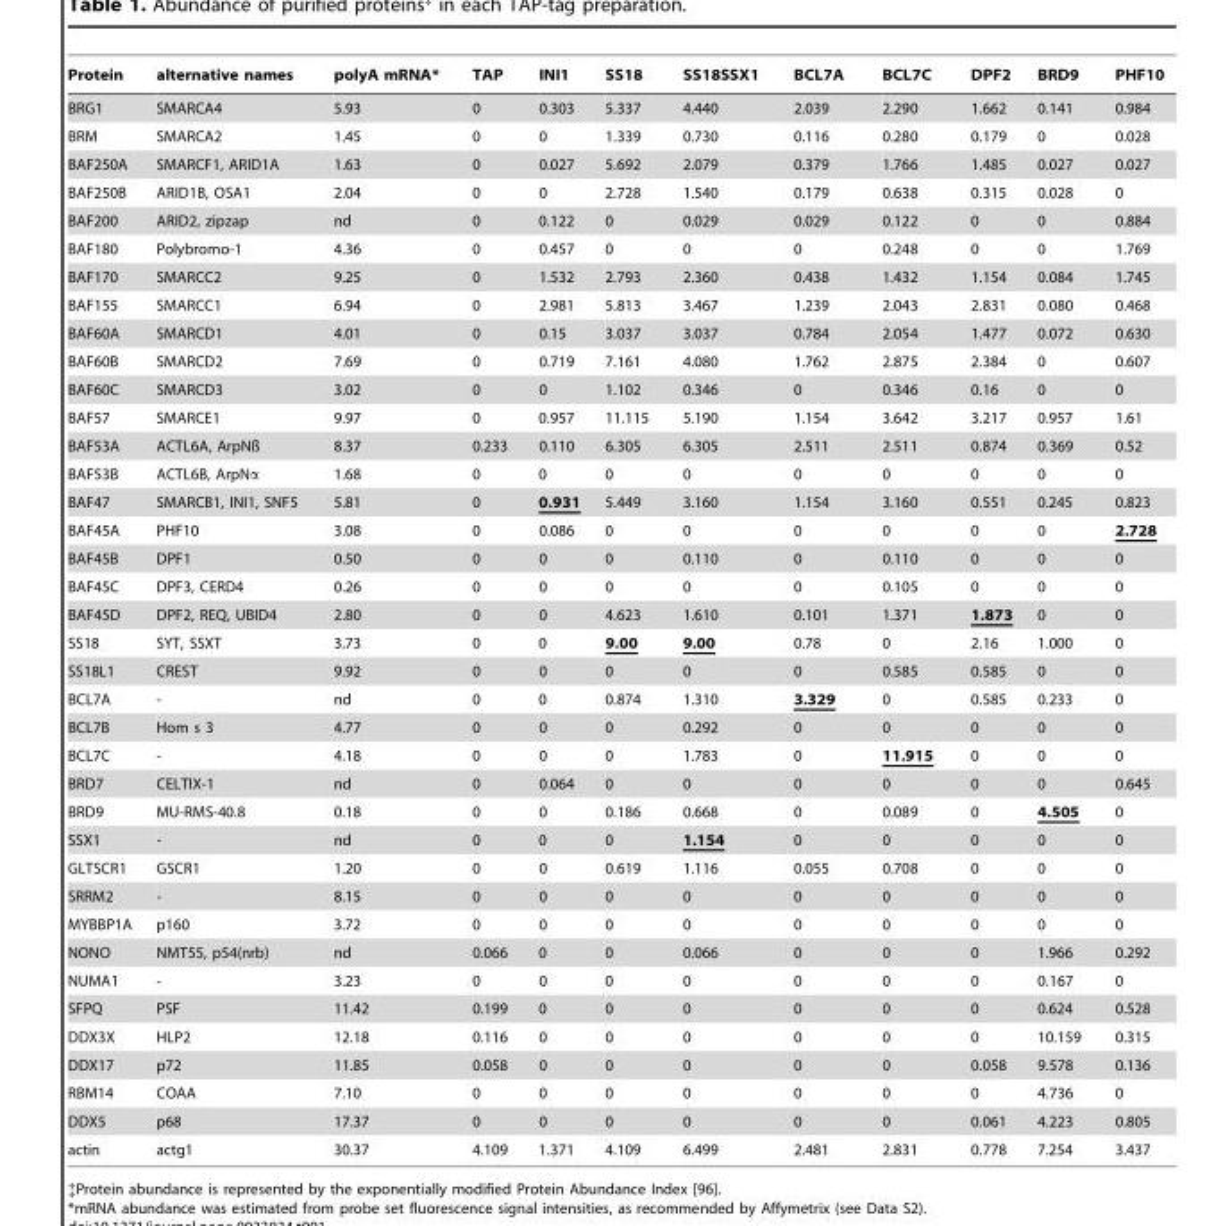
<table><thead><tr><td>Protein</td><td>alternative names</td><td>polyA mRNA*</td><td>TAP</td><td>INI1</td><td>SS18</td><td>SS18SSX1</td><td>BCL7A</td><td>BCL7C</td><td>DPF2</td><td>BRD9</td><td>PHF10</td></tr></thead><tbody><tr><td>BRG1</td><td>SMARCA4</td><td>5.93</td><td>0</td><td>0.303</td><td>5.337</td><td>4.440</td><td>2.039</td><td>2.290</td><td>1.662</td><td>0.141</td><td>0.984</td></tr><tr><td>BRM</td><td>SMARCA2</td><td>1.45</td><td>0</td><td>0</td><td>1.339</td><td>0.730</td><td>0.116</td><td>0.280</td><td>0.179</td><td>0</td><td>0.028</td></tr><tr><td>BAF250A</td><td>SMARCF1, ARID1A</td><td>1.63</td><td>0</td><td>0.027</td><td>5.692</td><td>2.079</td><td>0.379</td><td>1.766</td><td>1.485</td><td>0.027</td><td>0.027</td></tr><tr><td>BAF250B</td><td>ARID1B, OSA1</td><td>2.04</td><td>0</td><td>0</td><td>2.728</td><td>1.540</td><td>0.179</td><td>0.638</td><td>0.315</td><td>0.028</td><td>0</td></tr><tr><td>BAF200</td><td>ARID2, zipzap</td><td>nd</td><td>0</td><td>0.122</td><td>0</td><td>0.029</td><td>0.029</td><td>0.122</td><td>0</td><td>0</td><td>0.884</td></tr><tr><td>BAF180</td><td>Polybromo-1</td><td>4.36</td><td>0</td><td>0.457</td><td>0</td><td>0</td><td>0</td><td>0.248</td><td>0</td><td>0</td><td>1.769</td></tr><tr><td>BAF170</td><td>SMARCC2</td><td>9.25</td><td>0</td><td>1.532</td><td>2.793</td><td>2.360</td><td>0.438</td><td>1.432</td><td>1.154</td><td>0.084</td><td>1.745</td></tr><tr><td>BAF155</td><td>SMARCC1</td><td>6.94</td><td>0</td><td>2.981</td><td>5.813</td><td>3.467</td><td>1.239</td><td>2.043</td><td>2.831</td><td>0.080</td><td>0.468</td></tr><tr><td>BAF60A</td><td>SMARCD1</td><td>4.01</td><td>0</td><td>0.15</td><td>3.037</td><td>3.037</td><td>0.784</td><td>2.054</td><td>1.477</td><td>0.072</td><td>0.630</td></tr><tr><td>BAF60B</td><td>SMARCD2</td><td>7.69</td><td>0</td><td>0.719</td><td>7.161</td><td>4.080</td><td>1.762</td><td>2.875</td><td>2.384</td><td>0</td><td>0.607</td></tr><tr><td>BAF60C</td><td>SMARCD3</td><td>3.02</td><td>0</td><td>0</td><td>1.102</td><td>0.346</td><td>0</td><td>0.346</td><td>0.16</td><td>0</td><td>0</td></tr><tr><td>BAF57</td><td>SMARCE1</td><td>9.97</td><td>0</td><td>0.957</td><td>11.115</td><td>5.190</td><td>1.154</td><td>3.642</td><td>3.217</td><td>0.957</td><td>1.61</td></tr><tr><td>BAF53A</td><td>ACTL6A, ArpNß</td><td>8.37</td><td>0.233</td><td>0.110</td><td>6.305</td><td>6.305</td><td>2.511</td><td>2.511</td><td>0.874</td><td>0.369</td><td>0.52</td></tr><tr><td>BAF53B</td><td>ACTL6B, ArpNα</td><td>1.68</td><td>0</td><td>0</td><td>0</td><td>0</td><td>0</td><td>0</td><td>0</td><td>0</td><td>0</td></tr><tr><td>BAF47</td><td>SMARCB1, INI1, SNF5</td><td>5.81</td><td>0</td><td>0.931</td><td>5.449</td><td>3.160</td><td>1.154</td><td>3.160</td><td>0.551</td><td>0.245</td><td>0.823</td></tr><tr><td>BAF45A</td><td>PHF10</td><td>3.08</td><td>0</td><td>0.086</td><td>0</td><td>0</td><td>0</td><td>0</td><td>0</td><td>0</td><td>2.728</td></tr><tr><td>BAF45B</td><td>DPF1</td><td>0.50</td><td>0</td><td>0</td><td>0</td><td>0.110</td><td>0</td><td>0.110</td><td>0</td><td>0</td><td>0</td></tr><tr><td>BAF45C</td><td>DPF3, CERD4</td><td>0.26</td><td>0</td><td>0</td><td>0</td><td>0</td><td>0</td><td>0.105</td><td>0</td><td>0</td><td>0</td></tr><tr><td>BAF45D</td><td>DPF2, REQ, UBID4</td><td>2.80</td><td>0</td><td>0</td><td>4.623</td><td>1.610</td><td>0.101</td><td>1.371</td><td>1.873</td><td>0</td><td>0</td></tr><tr><td>SS18</td><td>SYT, SSXT</td><td>3.73</td><td>0</td><td>0</td><td>9.00</td><td>9.00</td><td>0.78</td><td>0</td><td>2.16</td><td>1.000</td><td>0</td></tr><tr><td>SS18L1</td><td>CREST</td><td>9.92</td><td>0</td><td>0</td><td>0</td><td>0</td><td>0</td><td>0.585</td><td>0.585</td><td>0</td><td>0</td></tr><tr><td>BCL7A</td><td>-</td><td>nd</td><td>0</td><td>0</td><td>0.874</td><td>1.310</td><td>3.329</td><td>0</td><td>0.585</td><td>0.233</td><td>0</td></tr><tr><td>BCL7B</td><td>Hom s 3</td><td>4.77</td><td>0</td><td>0</td><td>0</td><td>0.292</td><td>0</td><td>0</td><td>0</td><td>0</td><td>0</td></tr><tr><td>BCL7C</td><td>-</td><td>4.18</td><td>0</td><td>0</td><td>0</td><td>1.783</td><td>0</td><td>11.915</td><td>0</td><td>0</td><td>0</td></tr><tr><td>BRD7</td><td>CELTIX-1</td><td>nd</td><td>0</td><td>0.064</td><td>0</td><td>0</td><td>0</td><td>0</td><td>0</td><td>0</td><td>0.645</td></tr><tr><td>BRD9</td><td>MU-RMS-40.8</td><td>0.18</td><td>0</td><td>0</td><td>0.186</td><td>0.668</td><td>0</td><td>0.089</td><td>0</td><td>4.505</td><td>0</td></tr><tr><td>SSX1</td><td>-</td><td>nd</td><td>0</td><td>0</td><td>0</td><td>1.154</td><td>0</td><td>0</td><td>0</td><td>0</td><td>0</td></tr><tr><td>GLTSCR1</td><td>GSCR1</td><td>1.20</td><td>0</td><td>0</td><td>0.619</td><td>1.116</td><td>0.055</td><td>0.708</td><td>0</td><td>0</td><td>0</td></tr><tr><td>SRRM2</td><td>-</td><td>8.15</td><td>0</td><td>0</td><td>0</td><td>0</td><td>0</td><td>0</td><td>0</td><td>0</td><td>0</td></tr><tr><td>MYBBP1A</td><td>p160</td><td>3.72</td><td>0</td><td>0</td><td>0</td><td>0</td><td>0</td><td>0</td><td>0</td><td>0</td><td>0</td></tr><tr><td>NONO</td><td>NMT55, p54(nrb)</td><td>nd</td><td>0.066</td><td>0</td><td>0</td><td>0.066</td><td>0</td><td>0</td><td>0</td><td>1.966</td><td>0.292</td></tr><tr><td>NUMA1</td><td>-</td><td>3.23</td><td>0</td><td>0</td><td>0</td><td>0</td><td>0</td><td>0</td><td>0</td><td>0.167</td><td>0</td></tr><tr><td>SFPQ</td><td>PSF</td><td>11.42</td><td>0.199</td><td>0</td><td>0</td><td>0</td><td>0</td><td>0</td><td>0</td><td>0.624</td><td>0.528</td></tr><tr><td>DDX3X</td><td>HLP2</td><td>12.18</td><td>0.116</td><td>0</td><td>0</td><td>0</td><td>0</td><td>0</td><td>0</td><td>10.159</td><td>0.315</td></tr><tr><td>DDX17</td><td>p72</td><td>11.85</td><td>0.058</td><td>0</td><td>0</td><td>0</td><td>0</td><td>0</td><td>0.058</td><td>9.578</td><td>0.136</td></tr><tr><td>RBM14</td><td>COAA</td><td>7.10</td><td>0</td><td>0</td><td>0</td><td>0</td><td>0</td><td>0</td><td>0</td><td>4.736</td><td>0</td></tr><tr><td>DDX5</td><td>p68</td><td>17.37</td><td>0</td><td>0</td><td>0</td><td>0</td><td>0</td><td>0</td><td>0.061</td><td>4.223</td><td>0.805</td></tr><tr><td>actin</td><td>actg1</td><td>30.37</td><td>4.109</td><td>1.371</td><td>4.109</td><td>6.499</td><td>2.481</td><td>2.831</td><td>0.778</td><td>7.254</td><td>3.437</td></tr></tbody></table>